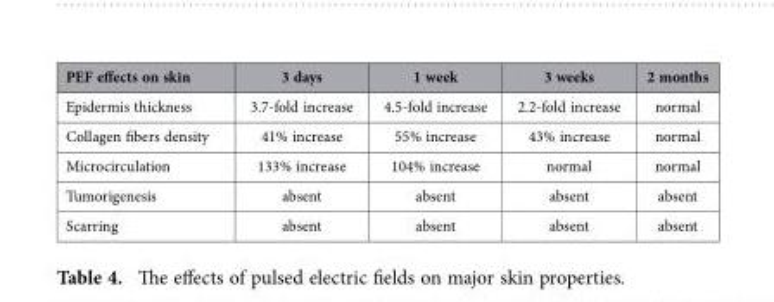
<table><thead><tr><td>PEF effects on skin</td><td>3 days</td><td>1 week</td><td>3 weeks</td><td>2 months</td></tr></thead><tbody><tr><td>Epidermis thickness</td><td>3.7-fold increase</td><td>4.5-fold increase</td><td>2.2-fold increase</td><td>normal</td></tr><tr><td>Collagen fibers density</td><td>41% increase</td><td>55% increase</td><td>43% increase</td><td>normal</td></tr><tr><td>Microcirculation</td><td>133% increase</td><td>104% increase</td><td>normal</td><td>normal</td></tr><tr><td>Tumorigenesis</td><td>absent</td><td>absent</td><td>absent</td><td>absent</td></tr><tr><td>Scarring</td><td>absent</td><td>absent</td><td>absent</td><td>absent</td></tr></tbody></table>